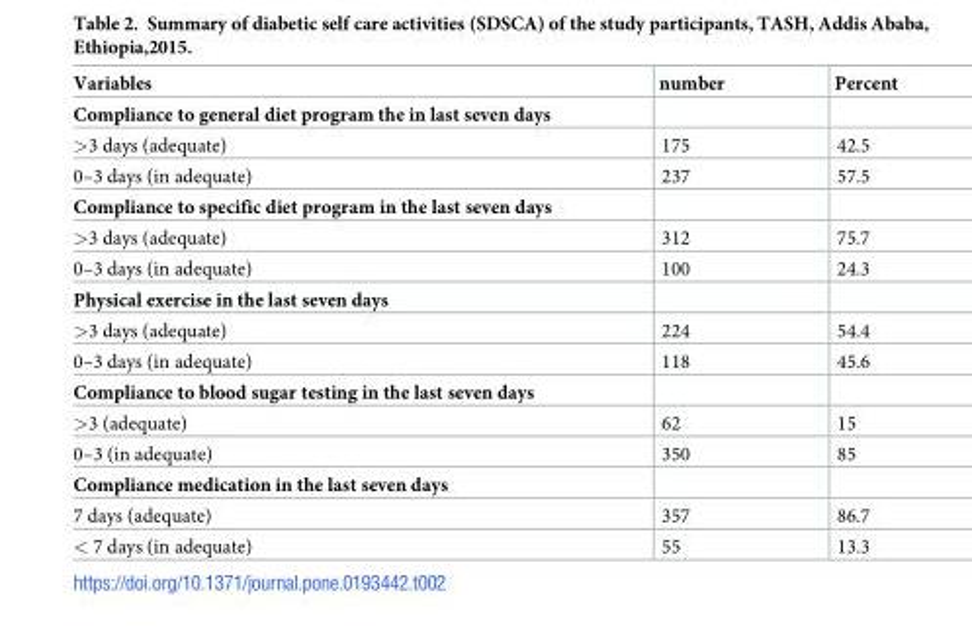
<table><thead><tr><td>Variables</td><td>number</td><td>Percent</td></tr></thead><tbody><tr><td colspan="3">Compliance to general diet program the in last seven days</td></tr><tr><td>&gt;3 days (adequate)</td><td>175</td><td>42.5</td></tr><tr><td>0–3 days (in adequate)</td><td>237</td><td>57.5</td></tr><tr><td colspan="3">Compliance to specific diet program in the last seven days</td></tr><tr><td>&gt;3 days (adequate)</td><td>312</td><td>75.7</td></tr><tr><td>0–3 days (in adequate)</td><td>100</td><td>24.3</td></tr><tr><td colspan="3">Physical exercise in the last seven days</td></tr><tr><td>&gt;3 days (adequate)</td><td>224</td><td>54.4</td></tr><tr><td>0–3 days (in adequate)</td><td>118</td><td>45.6</td></tr><tr><td colspan="3">Compliance to blood sugar testing in the last seven days</td></tr><tr><td>&gt;3 (adequate)</td><td>62</td><td>15</td></tr><tr><td>0–3 (in adequate)</td><td>350</td><td>85</td></tr><tr><td colspan="3">Compliance medication in the last seven days</td></tr><tr><td>7 days (adequate)</td><td>357</td><td>86.7</td></tr><tr><td>&lt; 7 days (in adequate)</td><td>55</td><td>13.3</td></tr></tbody></table>